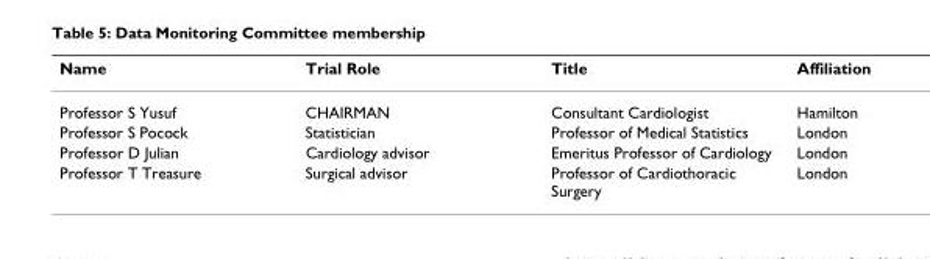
<table><thead><tr><td>Name</td><td>Trial Role</td><td>Title</td><td>Affiliation</td></tr></thead><tbody><tr><td>Professor S Yusuf</td><td>CHAIRMAN</td><td>Consultant Cardiologist</td><td>Hamilton</td></tr><tr><td>Professor S Pocock</td><td>Statistician</td><td>Professor of Medical Statistics</td><td>London</td></tr><tr><td>Professor D Julian</td><td>Cardiology advisor</td><td>Emeritus Professor of Cardiology</td><td>London</td></tr><tr><td>Professor T Treasure</td><td>Surgical advisor</td><td>Professor of Cardiothoracic Surgery</td><td>London</td></tr></tbody></table>